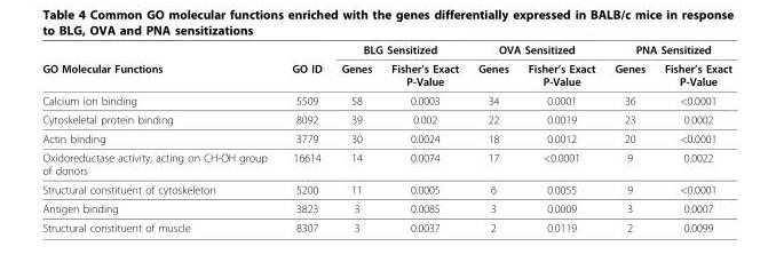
<table><thead><tr><td rowspan="2">GO Molecular Functions</td><td rowspan="2">GO ID</td><td colspan="2">BLG Sensitized</td><td colspan="2">OVA Sensitized</td><td colspan="2">PNA Sensitized</td></tr><tr><td>Genes</td><td>Fisher’s Exact P-Value</td><td>Genes</td><td>Fisher’s Exact P-Value</td><td>Genes</td><td>Fisher’s Exact P-Value</td></tr></thead><tbody><tr><td>Calcium ion binding</td><td>5509</td><td>58</td><td>0.0003</td><td>34</td><td>0.0001</td><td>36</td><td>&lt;0.0001</td></tr><tr><td>Cytoskeletal protein binding</td><td>8092</td><td>39</td><td>0.002</td><td>22</td><td>0.0019</td><td>23</td><td>0.0002</td></tr><tr><td>Actin binding</td><td>3779</td><td>30</td><td>0.0024</td><td>18</td><td>0.0012</td><td>20</td><td>&lt;0.0001</td></tr><tr><td>Oxidoreductase activity, acting on CH-OH group of donors</td><td>16614</td><td>14</td><td>0.0074</td><td>17</td><td>&lt;0.0001</td><td>9</td><td>0.0022</td></tr><tr><td>Structural constituent of cytoskeleton</td><td>5200</td><td>11</td><td>0.0005</td><td>6</td><td>0.0055</td><td>9</td><td>&lt;0.0001</td></tr><tr><td>Antigen binding</td><td>3823</td><td>3</td><td>0.0085</td><td>3</td><td>0.0009</td><td>3</td><td>0.0007</td></tr><tr><td>Structural constituent of muscle</td><td>8307</td><td>3</td><td>0.0037</td><td>2</td><td>0.0119</td><td>2</td><td>0.0099</td></tr></tbody></table>